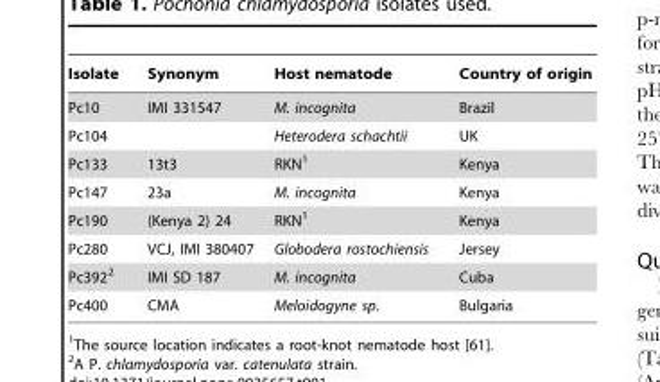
<table><thead><tr><td>Isolate</td><td>Synonym</td><td>Host nematode</td><td>Country of origin</td></tr></thead><tbody><tr><td>Pc10</td><td>IMI 331547</td><td>M. incognita</td><td>Brazil</td></tr><tr><td>Pc104</td><td></td><td>Heterodera schachtii</td><td>UK</td></tr><tr><td>Pc133</td><td>13t3</td><td>RKN<sup>1</sup></td><td>Kenya</td></tr><tr><td>Pc147</td><td>23a</td><td>M. incognita</td><td>Kenya</td></tr><tr><td>Pc190</td><td>(Kenya 2) 24</td><td>RKN<sup>1</sup></td><td>Kenya</td></tr><tr><td>Pc280</td><td>VCJ, IMI 380407</td><td>Globodera rostochiensis</td><td>Jersey</td></tr><tr><td>Pc392<sup>2</sup></td><td>IMI SD 187</td><td>M. incognita</td><td>Cuba</td></tr><tr><td>Pc400</td><td>CMA</td><td>Meloidogyne sp.</td><td>Bulgaria</td></tr></tbody></table>